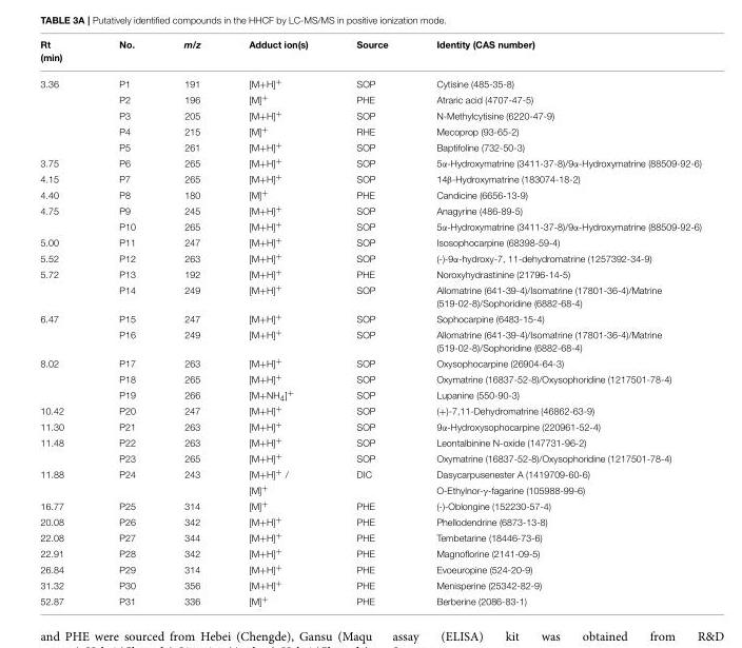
<table><thead><tr><td>Rt (min)</td><td>No.</td><td>m/z</td><td>Adduct ion(s)</td><td>Source</td><td>Identity (CAS number)</td></tr></thead><tbody><tr><td rowspan="5">3.36</td><td>P1</td><td>191</td><td>[M+H]<sup>+</sup></td><td>SOP</td><td>Cytisine (485-35-8)</td></tr><tr><td>P2</td><td>196</td><td>[M]<sup>+</sup></td><td>PHE</td><td>Atraric acid (4707-47-5)</td></tr><tr><td>P3</td><td>205</td><td>[M+H]<sup>+</sup></td><td>SOP</td><td>N-Methylcytisine (6220-47-9)</td></tr><tr><td>P4</td><td>215</td><td>[M]<sup>+</sup></td><td>RHE</td><td>Mecoprop (93-65-2)</td></tr><tr><td>P5</td><td>261</td><td>[M+H]<sup>+</sup></td><td>SOP</td><td>Baptifoline (732-50-3)</td></tr><tr><td>3.75</td><td>P6</td><td>265</td><td>[M+H]<sup>+</sup></td><td>SOP</td><td>5α-Hydroxymatrine (3411-37-8)/9α-Hydroxymatrine (88509-92-6)</td></tr><tr><td>4.15</td><td>P7</td><td>265</td><td>[M+H]<sup>+</sup></td><td>SOP</td><td>14β-Hydroxymatrine (183074-18-2)</td></tr><tr><td>4.40</td><td>P8</td><td>180</td><td>[M]<sup>+</sup></td><td>PHE</td><td>Candicine (6656-13-9)</td></tr><tr><td rowspan="2">4.75</td><td>P9</td><td>245</td><td>[M+H]<sup>+</sup></td><td>SOP</td><td>Anagyrine (486-89-5)</td></tr><tr><td>P10</td><td>265</td><td>[M+H]<sup>+</sup></td><td>SOP</td><td>5α-Hydroxymatrine (3411-37-8)/9α-Hydroxymatrine (88509-92-6)</td></tr><tr><td>5.00</td><td>P11</td><td>247</td><td>[M+H]<sup>+</sup></td><td>SOP</td><td>Isosophocarpine (68398-59-4)</td></tr><tr><td>5.52</td><td>P12</td><td>263</td><td>[M+H]<sup>+</sup></td><td>SOP</td><td>(-)-9α-hydroxy-7, 11-dehydromatrine (1257392-34-9)</td></tr><tr><td rowspan="2">5.72</td><td>P13</td><td>192</td><td>[M+H]<sup>+</sup></td><td>PHE</td><td>Noroxyhydrastinine (21796-14-5)</td></tr><tr><td>P14</td><td>249</td><td>[M+H]<sup>+</sup></td><td>SOP</td><td>Allomatrine (641-39-4)/Isomatrine (17801-36-4)/Matrine (519-02-8)/Sophoridine (6882-68-4)</td></tr><tr><td rowspan="2">6.47</td><td>P15</td><td>247</td><td>[M+H]<sup>+</sup></td><td>SOP</td><td>Sophocarpine (6483-15-4)</td></tr><tr><td>P16</td><td>249</td><td>[M+H]<sup>+</sup></td><td>SOP</td><td>Allomatrine (641-39-4)/Isomatrine (17801-36-4)/Matrine (519-02-8)/Sophoridine (6882-68-4)</td></tr><tr><td rowspan="3">8.02</td><td>P17</td><td>263</td><td>[M+H]<sup>+</sup></td><td>SOP</td><td>Oxysophocarpine (26904-64-3)</td></tr><tr><td>P18</td><td>265</td><td>[M+H]<sup>+</sup></td><td>SOP</td><td>Oxymatrine (16837-52-8)/Oxysophoridine (1217501-78-4)</td></tr><tr><td>P19</td><td>266</td><td>[M+NH<sub>4</sub>]<sup>+</sup></td><td>SOP</td><td>Lupanine (550-90-3)</td></tr><tr><td>10.42</td><td>P20</td><td>247</td><td>[M+H]<sup>+</sup></td><td>SOP</td><td>(+)-7,11-Dehydromatrine (46862-63-9)</td></tr><tr><td>11.30</td><td>P21</td><td>263</td><td>[M+H]<sup>+</sup></td><td>SOP</td><td>9α-Hydroxysophocarpine (220961-52-4)</td></tr><tr><td rowspan="2">11.48</td><td>P22</td><td>263</td><td>[M+H]<sup>+</sup></td><td>SOP</td><td>Leontalbinine N-oxide (147731-96-2)</td></tr><tr><td>P23</td><td>265</td><td>[M+H]<sup>+</sup></td><td>SOP</td><td>Oxymatrine (16837-52-8)/Oxysophoridine (1217501-78-4)</td></tr><tr><td rowspan="2">11.88</td><td>P24</td><td>243</td><td>[M+H]<sup>+</sup> /</td><td>DIC</td><td>Dasycarpusenester A (1419709-60-6)</td></tr><tr><td></td><td></td><td>[M]<sup>+</sup></td><td></td><td>O-Ethylnor-γ-fagarine (105988-99-6)</td></tr><tr><td>16.77</td><td>P25</td><td>314</td><td>[M]<sup>+</sup></td><td>PHE</td><td>(-)-Oblongine (152230-57-4)</td></tr><tr><td>20.08</td><td>P26</td><td>342</td><td>[M+H]<sup>+</sup></td><td>PHE</td><td>Phellodendrine (6873-13-8)</td></tr><tr><td>22.08</td><td>P27</td><td>344</td><td>[M+H]<sup>+</sup></td><td>PHE</td><td>Tembetarine (18446-73-6)</td></tr><tr><td>22.91</td><td>P28</td><td>342</td><td>[M+H]<sup>+</sup></td><td>PHE</td><td>Magnoflorine (2141-09-5)</td></tr><tr><td>26.84</td><td>P29</td><td>314</td><td>[M+H]<sup>+</sup></td><td>PHE</td><td>Evoeuropine (524-20-9)</td></tr><tr><td>31.32</td><td>P30</td><td>356</td><td>[M+H]<sup>+</sup></td><td>PHE</td><td>Menisperine (25342-82-9)</td></tr><tr><td>52.87</td><td>P31</td><td>336</td><td>[M]<sup>+</sup></td><td>PHE</td><td>Berberine (2086-83-1)</td></tr></tbody></table>